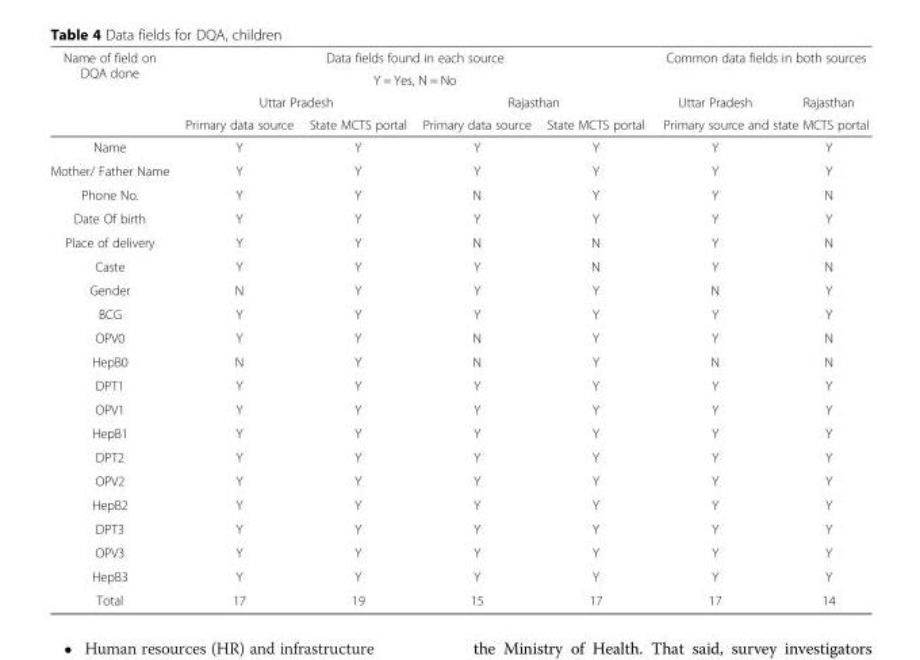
<table><thead><tr><td rowspan="4">Name of field on DQA done</td><td rowspan="2" colspan="4">Data fields found in each source Y = Yes, N = No</td><td rowspan="2" colspan="2">Common data fields in both sources</td></tr><tr></tr><tr><td colspan="2">Uttar Pradesh</td><td colspan="2">Rajasthan</td><td>Uttar Pradesh</td><td>Rajasthan</td></tr><tr><td>Primary data source</td><td>State MCTS portal</td><td>Primary data source</td><td>State MCTS portal</td><td colspan="2">Primary source and state MCTS portal</td></tr></thead><tbody><tr><td>Name</td><td>Y</td><td>Y</td><td>Y</td><td>Y</td><td>Y</td><td>Y</td></tr><tr><td>Mother/ Father Name</td><td>Y</td><td>Y</td><td>Y</td><td>Y</td><td>Y</td><td>Y</td></tr><tr><td>Phone No.</td><td>Y</td><td>Y</td><td>N</td><td>Y</td><td>Y</td><td>N</td></tr><tr><td>Date Of birth</td><td>Y</td><td>Y</td><td>Y</td><td>Y</td><td>Y</td><td>Y</td></tr><tr><td>Place of delivery</td><td>Y</td><td>Y</td><td>N</td><td>N</td><td>Y</td><td>N</td></tr><tr><td>Caste</td><td>Y</td><td>Y</td><td>Y</td><td>N</td><td>Y</td><td>N</td></tr><tr><td>Gender</td><td>N</td><td>Y</td><td>Y</td><td>Y</td><td>N</td><td>Y</td></tr><tr><td>BCG</td><td>Y</td><td>Y</td><td>Y</td><td>Y</td><td>Y</td><td>Y</td></tr><tr><td>OPV0</td><td>Y</td><td>Y</td><td>N</td><td>Y</td><td>Y</td><td>N</td></tr><tr><td>HepB0</td><td>N</td><td>Y</td><td>N</td><td>Y</td><td>N</td><td>N</td></tr><tr><td>DPT1</td><td>Y</td><td>Y</td><td>Y</td><td>Y</td><td>Y</td><td>Y</td></tr><tr><td>OPV1</td><td>Y</td><td>Y</td><td>Y</td><td>Y</td><td>Y</td><td>Y</td></tr><tr><td>HepB1</td><td>Y</td><td>Y</td><td>Y</td><td>Y</td><td>Y</td><td>Y</td></tr><tr><td>DPT2</td><td>Y</td><td>Y</td><td>Y</td><td>Y</td><td>Y</td><td>Y</td></tr><tr><td>OPV2</td><td>Y</td><td>Y</td><td>Y</td><td>Y</td><td>Y</td><td>Y</td></tr><tr><td>HepB2</td><td>Y</td><td>Y</td><td>Y</td><td>Y</td><td>Y</td><td>Y</td></tr><tr><td>DPT3</td><td>Y</td><td>Y</td><td>Y</td><td>Y</td><td>Y</td><td>Y</td></tr><tr><td>OPV3</td><td>Y</td><td>Y</td><td>Y</td><td>Y</td><td>Y</td><td>Y</td></tr><tr><td>HepB3</td><td>Y</td><td>Y</td><td>Y</td><td>Y</td><td>Y</td><td>Y</td></tr><tr><td>Total</td><td>17</td><td>19</td><td>15</td><td>17</td><td>17</td><td>14</td></tr></tbody></table>